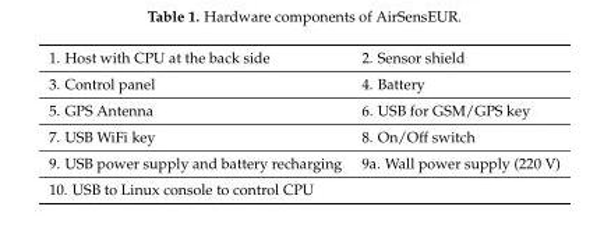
<table><tbody><tr><td>1. Host with CPU at the back side</td><td>2. Sensor shield</td></tr><tr><td>3. Control panel</td><td>4. Battery</td></tr><tr><td>5. GPS Antenna</td><td>6. USB for GSM/GPS key</td></tr><tr><td>7. USB WiFi key</td><td>8. On/Off switch</td></tr><tr><td>9. USB power supply and battery recharging</td><td>9a. Wall power supply (220 V)</td></tr><tr><td>10. USB to Linux console to control CPU</td><td></td></tr></tbody></table>